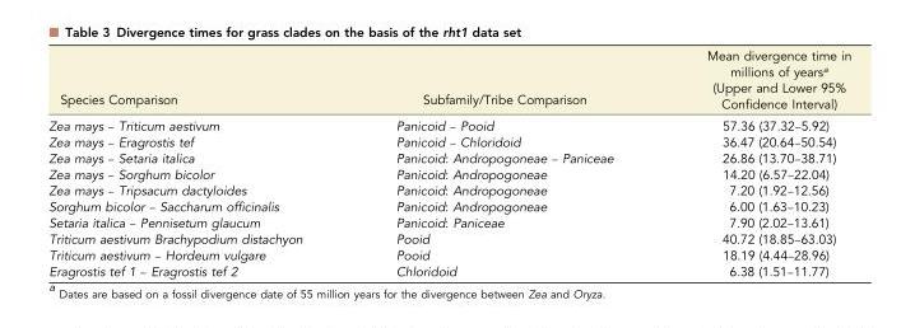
<table><thead><tr><td>Species Comparison</td><td>Subfamily/Tribe Comparison</td><td>Mean divergence time in millions of years<sup>a</sup> (Upper and Lower 95% Confidence Interval)</td></tr></thead><tbody><tr><td>Zea mays – Triticum aestivum</td><td>Panicoid – Pooid</td><td>57.36 (37.32–5.92)</td></tr><tr><td>Zea mays – Eragrostis tef</td><td>Panicoid – Chloridoid</td><td>36.47 (20.64–50.54)</td></tr><tr><td>Zea mays – Setaria italica</td><td>Panicoid: Andropogoneae – Paniceae</td><td>26.86 (13.70–38.71)</td></tr><tr><td>Zea mays – Sorghum bicolor</td><td>Panicoid: Andropogoneae</td><td>14.20 (6.57–22.04)</td></tr><tr><td>Zea mays – Tripsacum dactyloides</td><td>Panicoid: Andropogoneae</td><td>7.20 (1.92–12.56)</td></tr><tr><td>Sorghum bicolor – Saccharum officinalis</td><td>Panicoid: Andropogoneae</td><td>6.00 (1.63–10.23)</td></tr><tr><td>Setaria italica – Pennisetum glaucum</td><td>Panicoid: Paniceae</td><td>7.90 (2.02–13.61)</td></tr><tr><td>Triticum aestivum Brachypodium distachyon</td><td>Pooid</td><td>40.72 (18.85–63.03)</td></tr><tr><td>Triticum aestivum – Hordeum vulgare</td><td>Pooid</td><td>18.19 (4.44–28.96)</td></tr><tr><td>Eragrostis tef 1 – Eragrostis tef 2</td><td>Chloridoid</td><td>6.38 (1.51–11.77)</td></tr></tbody></table>